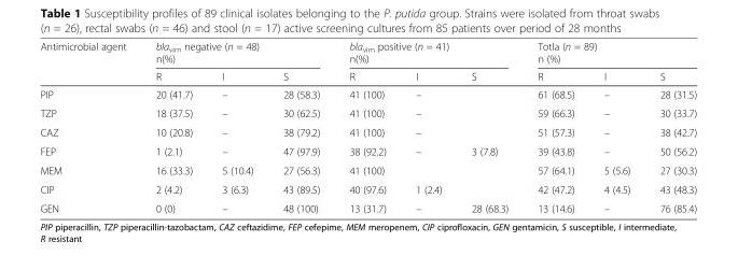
<table><thead><tr><td rowspan="2">Antimicrobial agent</td><td colspan="3">bla<sub>vim</sub> negative (n = 48) n(%)</td><td colspan="3">bla<sub>vim</sub> positive (n = 41) n(%)</td><td colspan="3">Totla (n = 89) n (%)</td></tr><tr><td>R</td><td>I</td><td>S</td><td>R</td><td>I</td><td>S</td><td>R</td><td>I</td><td>S</td></tr></thead><tbody><tr><td>PIP</td><td>20 (41.7)</td><td>–</td><td>28 (58.3)</td><td>41 (100)</td><td>–</td><td></td><td>61 (68.5)</td><td>–</td><td>28 (31.5)</td></tr><tr><td>TZP</td><td>18 (37.5)</td><td>–</td><td>30 (62.5)</td><td>41 (100)</td><td>–</td><td></td><td>59 (66.3)</td><td>–</td><td>30 (33.7)</td></tr><tr><td>CAZ</td><td>10 (20.8)</td><td>–</td><td>38 (79.2)</td><td>41 (100)</td><td>–</td><td></td><td>51 (57.3)</td><td>–</td><td>38 (42.7)</td></tr><tr><td>FEP</td><td>1 (2.1)</td><td>–</td><td>47 (97.9)</td><td>38 (92.2)</td><td>–</td><td>3 (7.8)</td><td>39 (43.8)</td><td>–</td><td>50 (56.2)</td></tr><tr><td>MEM</td><td>16 (33.3)</td><td>5 (10.4)</td><td>27 (56.3)</td><td>41 (100)</td><td></td><td></td><td>57 (64.1)</td><td>5 (5.6)</td><td>27 (30.3)</td></tr><tr><td>CIP</td><td>2 (4.2)</td><td>3 (6.3)</td><td>43 (89.5)</td><td>40 (97.6)</td><td>1 (2.4)</td><td></td><td>42 (47.2)</td><td>4 (4.5)</td><td>43 (48.3)</td></tr><tr><td>GEN</td><td>0 (0)</td><td>–</td><td>48 (100)</td><td>13 (31.7)</td><td>–</td><td>28 (68.3)</td><td>13 (14.6)</td><td>–</td><td>76 (85.4)</td></tr></tbody></table>